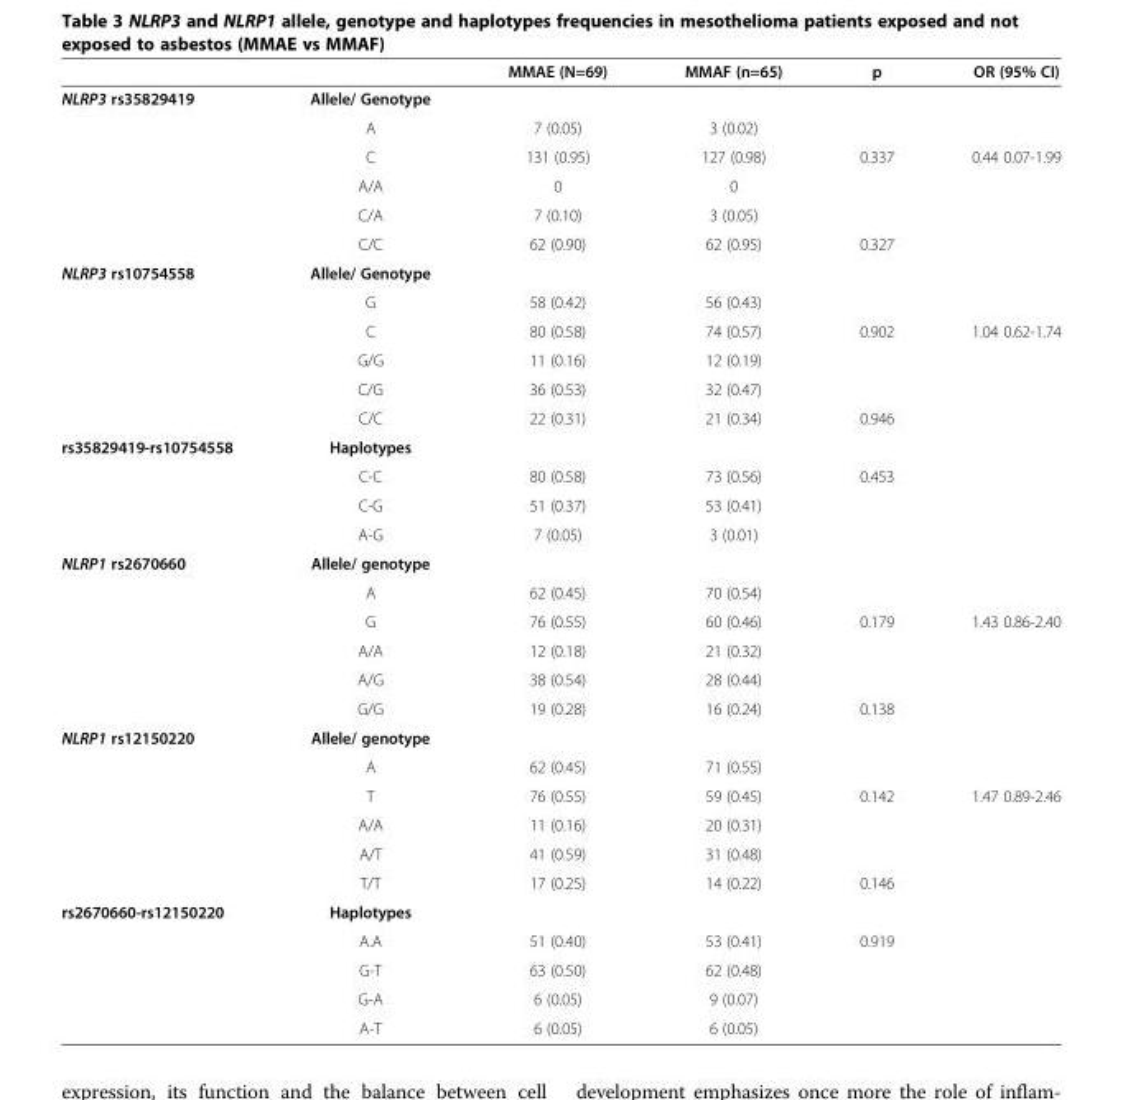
<table><thead><tr><td></td><td></td><td>MMAE (N=69)</td><td>MMAF (n=65)</td><td>p</td><td>OR (95% CI)</td></tr></thead><tbody><tr><td rowspan="6">NLRP3 rs35829419</td><td>Allele/ Genotype</td><td></td><td></td><td></td><td></td></tr><tr><td>A</td><td>7 (0.05)</td><td>3 (0.02)</td><td></td><td></td></tr><tr><td>C</td><td>131 (0.95)</td><td>127 (0.98)</td><td>0.337</td><td>0.44 0.07-1.99</td></tr><tr><td>A/A</td><td>0</td><td>0</td><td></td><td></td></tr><tr><td>C/A</td><td>7 (0.10)</td><td>3 (0.05)</td><td></td><td></td></tr><tr><td>C/C</td><td>62 (0.90)</td><td>62 (0.95)</td><td>0.327</td><td></td></tr><tr><td rowspan="6">NLRP3 rs10754558</td><td>Allele/ Genotype</td><td></td><td></td><td></td><td></td></tr><tr><td>G</td><td>58 (0.42)</td><td>56 (0.43)</td><td></td><td></td></tr><tr><td>C</td><td>80 (0.58)</td><td>74 (0.57)</td><td>0.902</td><td>1.04 0.62-1.74</td></tr><tr><td>G/G</td><td>11 (0.16)</td><td>12 (0.19)</td><td></td><td></td></tr><tr><td>C/G</td><td>36 (0.53)</td><td>32 (0.47)</td><td></td><td></td></tr><tr><td>C/C</td><td>22 (0.31)</td><td>21 (0.34)</td><td>0.946</td><td></td></tr><tr><td rowspan="4">rs35829419-rs10754558</td><td>Haplotypes</td><td></td><td></td><td></td><td></td></tr><tr><td>C-C</td><td>80 (0.58)</td><td>73 (0.56)</td><td>0.453</td><td></td></tr><tr><td>C-G</td><td>51 (0.37)</td><td>53 (0.41)</td><td></td><td></td></tr><tr><td>A-G</td><td>7 (0.05)</td><td>3 (0.01)</td><td></td><td></td></tr><tr><td rowspan="6">NLRP1 rs2670660</td><td>Allele/ genotype</td><td></td><td></td><td></td><td></td></tr><tr><td>A</td><td>62 (0.45)</td><td>70 (0.54)</td><td></td><td></td></tr><tr><td>G</td><td>76 (0.55)</td><td>60 (0.46)</td><td>0.179</td><td>1.43 0.86-2.40</td></tr><tr><td>A/A</td><td>12 (0.18)</td><td>21 (0.32)</td><td></td><td></td></tr><tr><td>A/G</td><td>38 (0.54)</td><td>28 (0.44)</td><td></td><td></td></tr><tr><td>G/G</td><td>19 (0.28)</td><td>16 (0.24)</td><td>0.138</td><td></td></tr><tr><td rowspan="6">NLRP1 rs12150220</td><td>Allele/ genotype</td><td></td><td></td><td></td><td></td></tr><tr><td>A</td><td>62 (0.45)</td><td>71 (0.55)</td><td></td><td></td></tr><tr><td>T</td><td>76 (0.55)</td><td>59 (0.45)</td><td>0.142</td><td>1.47 0.89-2.46</td></tr><tr><td>A/A</td><td>11 (0.16)</td><td>20 (0.31)</td><td></td><td></td></tr><tr><td>A/T</td><td>41 (0.59)</td><td>31 (0.48)</td><td></td><td></td></tr><tr><td>T/T</td><td>17 (0.25)</td><td>14 (0.22)</td><td>0.146</td><td></td></tr><tr><td rowspan="5">rs2670660-rs12150220</td><td>Haplotypes</td><td></td><td></td><td></td><td></td></tr><tr><td>A.A</td><td>51 (0.40)</td><td>53 (0.41)</td><td>0.919</td><td></td></tr><tr><td>G-T</td><td>63 (0.50)</td><td>62 (0.48)</td><td></td><td></td></tr><tr><td>G-A</td><td>6 (0.05)</td><td>9 (0.07)</td><td></td><td></td></tr><tr><td>A-T</td><td>6 (0.05)</td><td>6 (0.05)</td><td></td><td></td></tr></tbody></table>